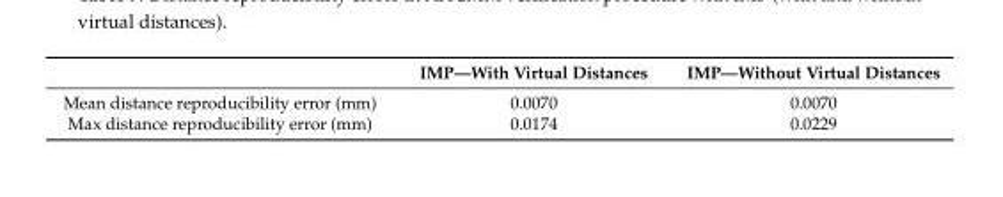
<table><thead><tr><td></td><td>IMP—With Virtual Distances</td><td>IMP—Without Virtual Distances</td></tr></thead><tbody><tr><td>Mean distance reproducibility error (mm)</td><td>0.0070</td><td>0.0070</td></tr><tr><td>Max distance reproducibility error (mm)</td><td>0.0174</td><td>0.0229</td></tr></tbody></table>